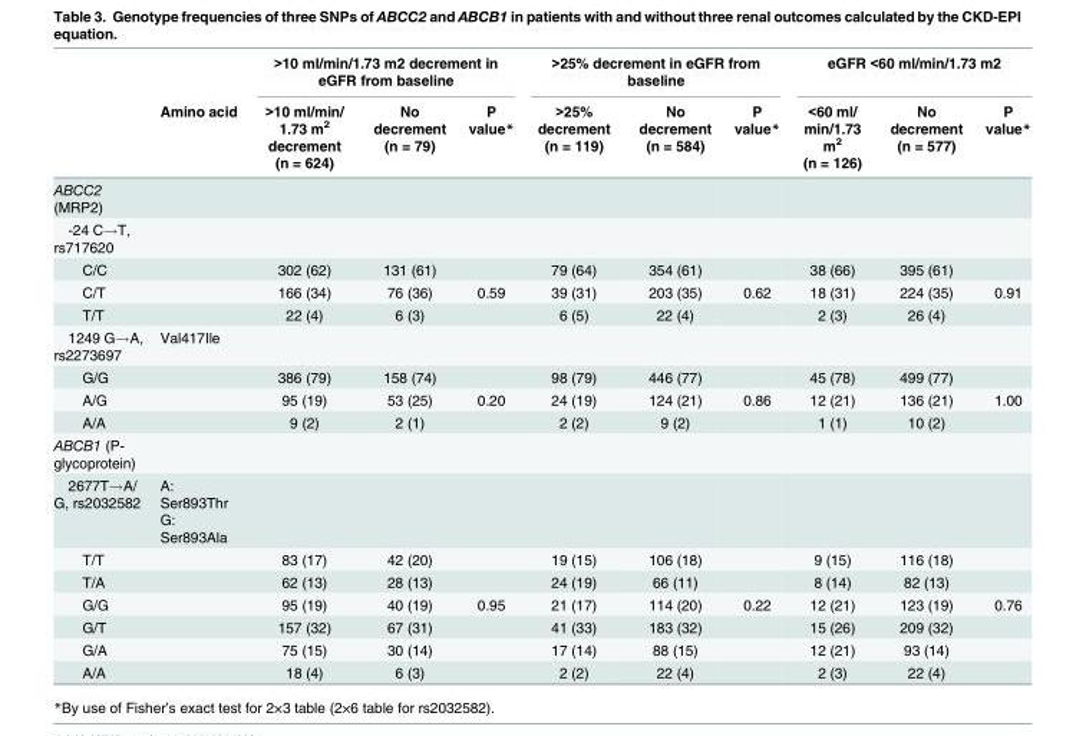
<table><thead><tr><td rowspan="2"></td><td rowspan="2">Amino acid</td><td colspan="3">&gt;10 ml/min/1.73 m2 decrement in eGFR from baseline</td><td colspan="3">&gt;25% decrement in eGFR from baseline</td><td colspan="3">eGFR &lt;60 ml/min/1.73 m2</td></tr><tr><td>&gt;10 ml/min/ 1.73 m<sup>2</sup> decrement (n = 624)</td><td>No decrement (n = 79)</td><td>P value*</td><td>&gt;25% decrement (n = 119)</td><td>No decrement (n = 584)</td><td>P value*</td><td>&lt;60 ml/ min/1.73 m<sup>2</sup> (n = 126)</td><td>No decrement (n = 577)</td><td>P value*</td></tr></thead><tbody><tr><td colspan="11">ABCC2 (MRP2)</td></tr><tr><td colspan="11">-24 C→T, rs717620</td></tr><tr><td>C/C</td><td></td><td>302 (62)</td><td>131 (61)</td><td></td><td>79 (64)</td><td>354 (61)</td><td></td><td>38 (66)</td><td>395 (61)</td><td></td></tr><tr><td>C/T</td><td></td><td>166 (34)</td><td>76 (36)</td><td>0.59</td><td>39 (31)</td><td>203 (35)</td><td>0.62</td><td>18 (31)</td><td>224 (35)</td><td>0.91</td></tr><tr><td>T/T</td><td></td><td>22 (4)</td><td>6 (3)</td><td></td><td>6 (5)</td><td>22 (4)</td><td></td><td>2 (3)</td><td>26 (4)</td><td></td></tr><tr><td>1249 G→A, rs2273697</td><td>Val417Ile</td><td></td><td></td><td></td><td></td><td></td><td></td><td></td><td></td><td></td></tr><tr><td>G/G</td><td></td><td>386 (79)</td><td>158 (74)</td><td></td><td>98 (79)</td><td>446 (77)</td><td></td><td>45 (78)</td><td>499 (77)</td><td></td></tr><tr><td>A/G</td><td></td><td>95 (19)</td><td>53 (25)</td><td>0.20</td><td>24 (19)</td><td>124 (21)</td><td>0.86</td><td>12 (21)</td><td>136 (21)</td><td>1.00</td></tr><tr><td>A/A</td><td></td><td>9 (2)</td><td>2 (1)</td><td></td><td>2 (2)</td><td>9 (2)</td><td></td><td>1 (1)</td><td>10 (2)</td><td></td></tr><tr><td colspan="11">ABCB1 (P- glycoprotein)</td></tr><tr><td>2677T→A/ G, rs2032582</td><td>A: Ser893Thr G: Ser893Ala</td><td></td><td></td><td></td><td></td><td></td><td></td><td></td><td></td><td></td></tr><tr><td>T/T</td><td></td><td>83 (17)</td><td>42 (20)</td><td></td><td>19 (15)</td><td>106 (18)</td><td></td><td>9 (15)</td><td>116 (18)</td><td></td></tr><tr><td>T/A</td><td></td><td>62 (13)</td><td>28 (13)</td><td></td><td>24 (19)</td><td>66 (11)</td><td></td><td>8 (14)</td><td>82 (13)</td><td></td></tr><tr><td>G/G</td><td></td><td>95 (19)</td><td>40 (19)</td><td>0.95</td><td>21 (17)</td><td>114 (20)</td><td>0.22</td><td>12 (21)</td><td>123 (19)</td><td>0.76</td></tr><tr><td>G/T</td><td></td><td>157 (32)</td><td>67 (31)</td><td></td><td>41 (33)</td><td>183 (32)</td><td></td><td>15 (26)</td><td>209 (32)</td><td></td></tr><tr><td>G/A</td><td></td><td>75 (15)</td><td>30 (14)</td><td></td><td>17 (14)</td><td>88 (15)</td><td></td><td>12 (21)</td><td>93 (14)</td><td></td></tr><tr><td>A/A</td><td></td><td>18 (4)</td><td>6 (3)</td><td></td><td>2 (2)</td><td>22 (4)</td><td></td><td>2 (3)</td><td>22 (4)</td><td></td></tr></tbody></table>